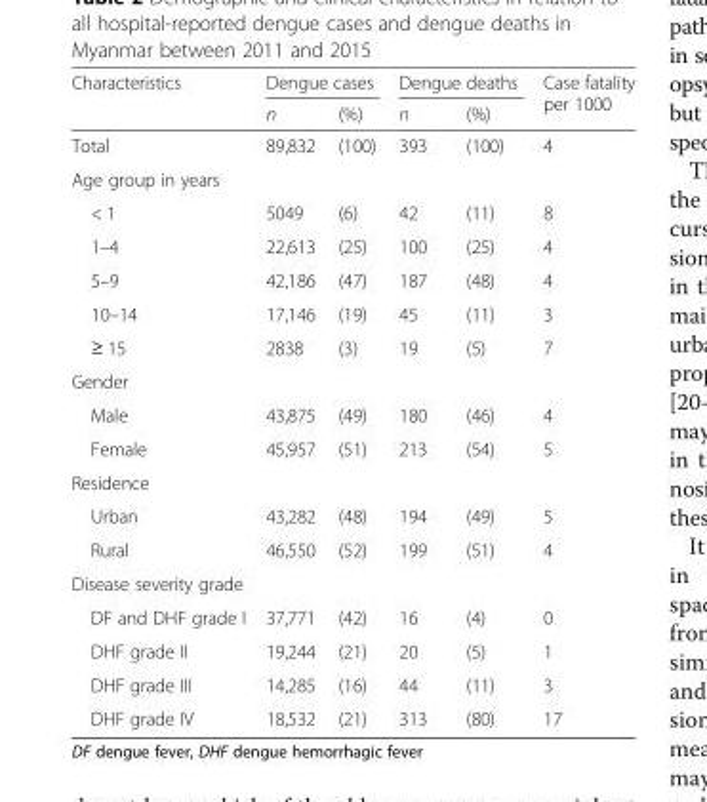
<table><thead><tr><td rowspan="2">Characteristics</td><td colspan="2">Dengue cases</td><td colspan="2">Dengue deaths</td><td rowspan="2">Case fatality per 1000</td></tr><tr><td>n</td><td>(%)</td><td>n</td><td>(%)</td></tr></thead><tbody><tr><td>Total</td><td>89,832</td><td>(100)</td><td>393</td><td>(100)</td><td>4</td></tr><tr><td colspan="6">Age group in years</td></tr><tr><td>&lt; 1</td><td>5049</td><td>(6)</td><td>42</td><td>(11)</td><td>8</td></tr><tr><td>1–4</td><td>22,613</td><td>(25)</td><td>100</td><td>(25)</td><td>4</td></tr><tr><td>5–9</td><td>42,186</td><td>(47)</td><td>187</td><td>(48)</td><td>4</td></tr><tr><td>10–14</td><td>17,146</td><td>(19)</td><td>45</td><td>(11)</td><td>3</td></tr><tr><td>≥ 15</td><td>2838</td><td>(3)</td><td>19</td><td>(5)</td><td>7</td></tr><tr><td colspan="6">Gender</td></tr><tr><td>Male</td><td>43,875</td><td>(49)</td><td>180</td><td>(46)</td><td>4</td></tr><tr><td>Female</td><td>45,957</td><td>(51)</td><td>213</td><td>(54)</td><td>5</td></tr><tr><td colspan="6">Residence</td></tr><tr><td>Urban</td><td>43,282</td><td>(48)</td><td>194</td><td>(49)</td><td>5</td></tr><tr><td>Rural</td><td>46,550</td><td>(52)</td><td>199</td><td>(51)</td><td>4</td></tr><tr><td colspan="6">Disease severity grade</td></tr><tr><td>DF and DHF grade I</td><td>37,771</td><td>(42)</td><td>16</td><td>(4)</td><td>0</td></tr><tr><td>DHF grade II</td><td>19,244</td><td>(21)</td><td>20</td><td>(5)</td><td>1</td></tr><tr><td>DHF grade III</td><td>14,285</td><td>(16)</td><td>44</td><td>(11)</td><td>3</td></tr><tr><td>DHF grade IV</td><td>18,532</td><td>(21)</td><td>313</td><td>(80)</td><td>17</td></tr></tbody></table>